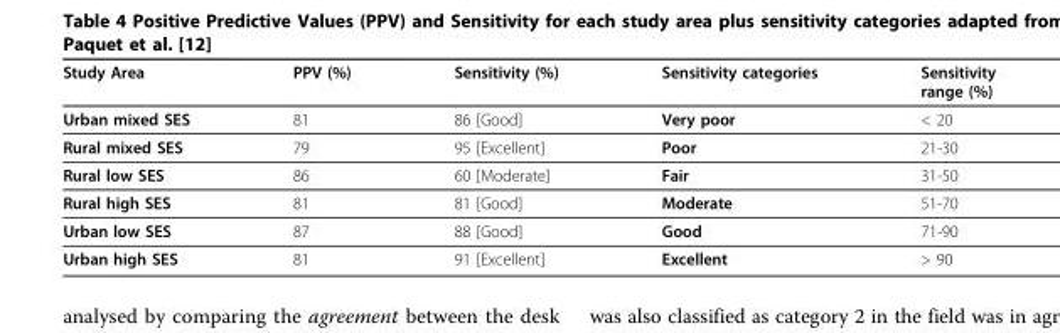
<table><thead><tr><td>Study Area</td><td>PPV (%)</td><td>Sensitivity (%)</td><td>Sensitivity categories</td><td>Sensitivity range (%)</td></tr></thead><tbody><tr><td>Urban mixed SES</td><td>81</td><td>86 [Good]</td><td>Very poor</td><td>&lt; 20</td></tr><tr><td>Rural mixed SES</td><td>79</td><td>95 [Excellent]</td><td>Poor</td><td>21-30</td></tr><tr><td>Rural low SES</td><td>86</td><td>60 [Moderate]</td><td>Fair</td><td>31-50</td></tr><tr><td>Rural high SES</td><td>81</td><td>81 [Good]</td><td>Moderate</td><td>51-70</td></tr><tr><td>Urban low SES</td><td>87</td><td>88 [Good]</td><td>Good</td><td>71-90</td></tr><tr><td>Urban high SES</td><td>81</td><td>91 [Excellent]</td><td>Excellent</td><td>&gt; 90</td></tr></tbody></table>